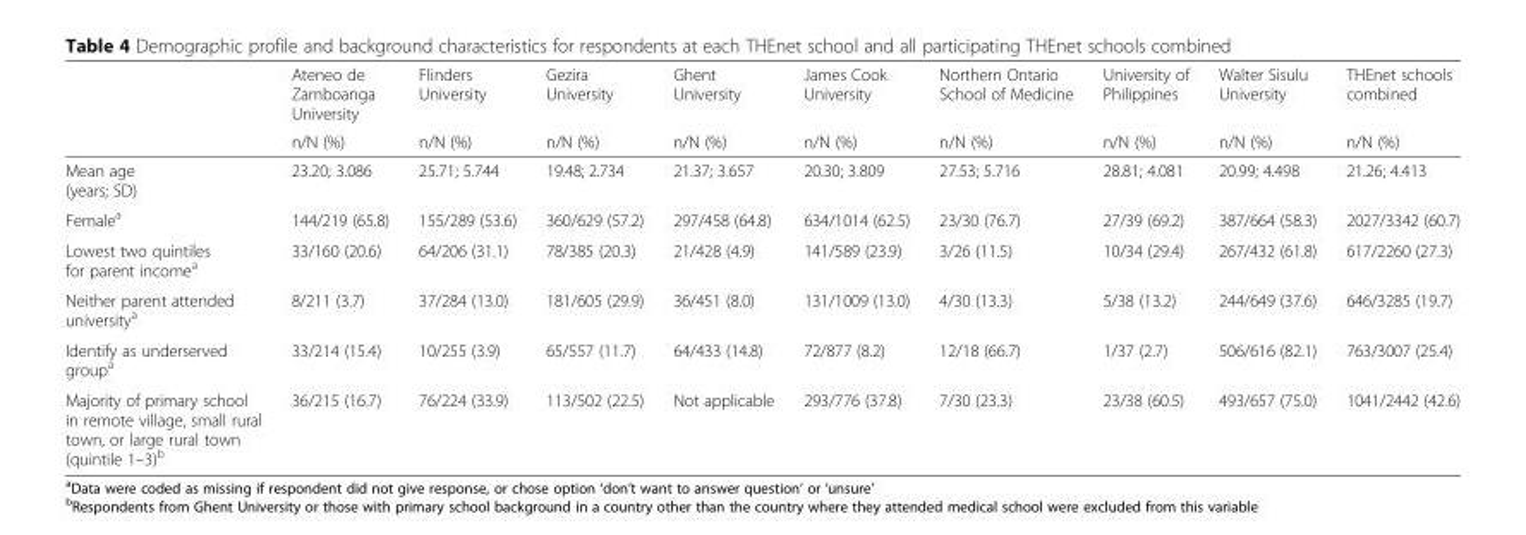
<table><thead><tr><td rowspan="2"></td><td rowspan="2">Ateneo de Zamboanga University n/N (%)</td><td rowspan="2">Flinders University n/N (%)</td><td rowspan="2">Gezira University n/N (%)</td><td rowspan="2">Ghent University n/N (%)</td><td rowspan="2">James Cook University n/N (%)</td><td rowspan="2">Northern Ontario School of Medicine n/N (%)</td><td rowspan="2">University of Philippines n/N (%)</td><td rowspan="2">Walter Sisulu University n/N (%)</td><td rowspan="2">THEnet schools combined n/N (%)</td></tr><tr></tr></thead><tbody><tr><td>Mean age (years; SD)</td><td>23.20; 3.086</td><td>25.71; 5.744</td><td>19.48; 2.734</td><td>21.37; 3.657</td><td>20.30; 3.809</td><td>27.53; 5.716</td><td>28.81; 4.081</td><td>20.99; 4.498</td><td>21.26; 4.413</td></tr><tr><td>Female<sup>a</sup></td><td>144/219 (65.8)</td><td>155/289 (53.6)</td><td>360/629 (57.2)</td><td>297/458 (64.8)</td><td>634/1014 (62.5)</td><td>23/30 (76.7)</td><td>27/39 (69.2)</td><td>387/664 (58.3)</td><td>2027/3342 (60.7)</td></tr><tr><td>Lowest two quintiles for parent income<sup>a</sup></td><td>33/160 (20.6)</td><td>64/206 (31.1)</td><td>78/385 (20.3)</td><td>21/428 (4.9)</td><td>141/589 (23.9)</td><td>3/26 (11.5)</td><td>10/34 (29.4)</td><td>267/432 (61.8)</td><td>617/2260 (27.3)</td></tr><tr><td>Neither parent attended university<sup>a</sup></td><td>8/211 (3.7)</td><td>37/284 (13.0)</td><td>181/605 (29.9)</td><td>36/451 (8.0)</td><td>131/1009 (13.0)</td><td>4/30 (13.3)</td><td>5/38 (13.2)</td><td>244/649 (37.6)</td><td>646/3285 (19.7)</td></tr><tr><td>Identify as underserved group<sup>a</sup></td><td>33/214 (15.4)</td><td>10/255 (3.9)</td><td>65/557 (11.7)</td><td>64/433 (14.8)</td><td>72/877 (8.2)</td><td>12/18 (66.7)</td><td>1/37 (2.7)</td><td>506/616 (82.1)</td><td>763/3007 (25.4)</td></tr><tr><td>Majority of primary school in remote village, small rural town, or large rural town (quintile 1–3)<sup>b</sup></td><td>36/215 (16.7)</td><td>76/224 (33.9)</td><td>113/502 (22.5)</td><td>Not applicable</td><td>293/776 (37.8)</td><td>7/30 (23.3)</td><td>23/38 (60.5)</td><td>493/657 (75.0)</td><td>1041/2442 (42.6)</td></tr></tbody></table>